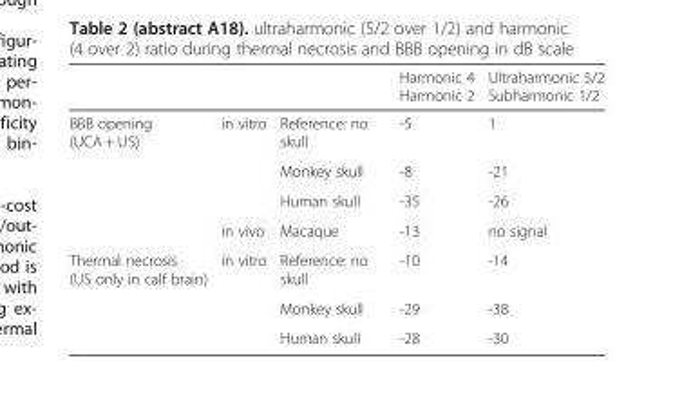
<table><thead><tr><td></td><td></td><td></td><td>Harmonic 4 Harmonic 2</td><td>Ultraharmonic 5/2 Subharmonic 1/2</td></tr></thead><tbody><tr><td rowspan="4">BBB opening (UCA + US)</td><td rowspan="3">in vitro</td><td>Reference: no skull</td><td>-5</td><td>1</td></tr><tr><td>Monkey skull</td><td>-8</td><td>-21</td></tr><tr><td>Human skull</td><td>-35</td><td>-26</td></tr><tr><td>in vivo</td><td>Macaque</td><td>-13</td><td>no signal</td></tr><tr><td rowspan="3">Thermal necrosis (US only in calf brain)</td><td rowspan="3">in vitro</td><td>Reference: no skull</td><td>-10</td><td>-14</td></tr><tr><td>Monkey skull</td><td>-29</td><td>-38</td></tr><tr><td>Human skull</td><td>-28</td><td>-30</td></tr></tbody></table>